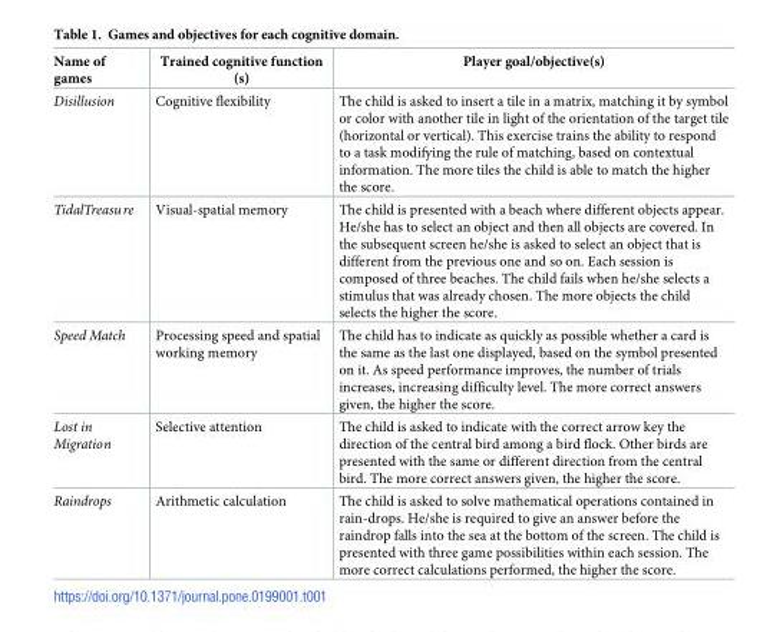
<table><thead><tr><td>Name of games</td><td>Trained cognitive function (s)</td><td>Player goal/objective(s)</td></tr></thead><tbody><tr><td>Disillusion</td><td>Cognitive flexibility</td><td>The child is asked to insert a tile in a matrix, matching it by symbol or color with another tile in light of the orientation of the target tile (horizontal or vertical). This exercise trains the ability to respond to a task modifying the rule of matching, based on contextual information. The more tiles the child is able to match the higher the score.</td></tr><tr><td>TidalTreasure</td><td>Visual-spatial memory</td><td>The child is presented with a beach where different objects appear. He/she has to select an object and then all objects are covered. In the subsequent screen he/she is asked to select an object that is different from the previous one and so on. Each session is composed of three beaches. The child fails when he/she selects a stimulus that was already chosen. The more objects the child selects the higher the score.</td></tr><tr><td>Speed Match</td><td>Processing speed and spatial working memory</td><td>The child has to indicate as quickly as possible whether a card is the same as the last one displayed, based on the symbol presented on it. As speed performance improves, the number of trials increases, increasing difficulty level. The more correct answers given, the higher the score.</td></tr><tr><td>Lost in Migration</td><td>Selective attention</td><td>The child is asked to indicate with the correct arrow key the direction of the central bird among a bird flock. Other birds are presented with the same or different direction from the central bird. The more correct answers given, the higher the score.</td></tr><tr><td>Raindrops</td><td>Arithmetic calculation</td><td>The child is asked to solve mathematical operations contained in rain-drops. He/she is required to give an answer before the raindrop falls into the sea at the bottom of the screen. The child is presented with three game possibilities within each session. The more correct calculations performed, the higher the score.</td></tr></tbody></table>